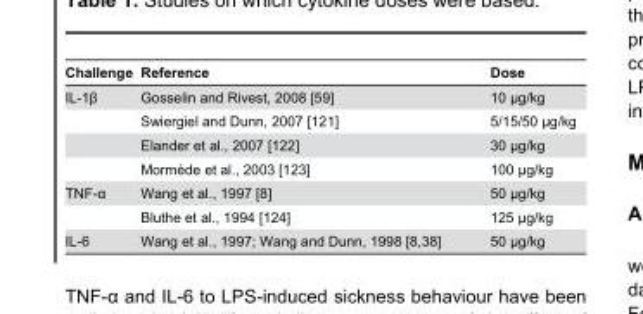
<table><thead><tr><td>Challenge</td><td>Reference</td><td>Dose</td></tr></thead><tbody><tr><td rowspan="4">IL-1β</td><td>Gosselin and Rivest, 2008 [59]</td><td>10 µg/kg</td></tr><tr><td>Swiergiel and Dunn, 2007 [121]</td><td>5/15/50 µg/kg</td></tr><tr><td>Elander et al., 2007 [122]</td><td>30 µg/kg</td></tr><tr><td>Mormède et al., 2003 [123]</td><td>100 µg/kg</td></tr><tr><td rowspan="2">TNF-α</td><td>Wang et al., 1997 [8]</td><td>50 µg/kg</td></tr><tr><td>Bluthe et al., 1994 [124]</td><td>125 µg/kg</td></tr><tr><td>IL-6</td><td>Wang et al., 1997; Wang and Dunn, 1998 [8,38]</td><td>50 µg/kg</td></tr></tbody></table>